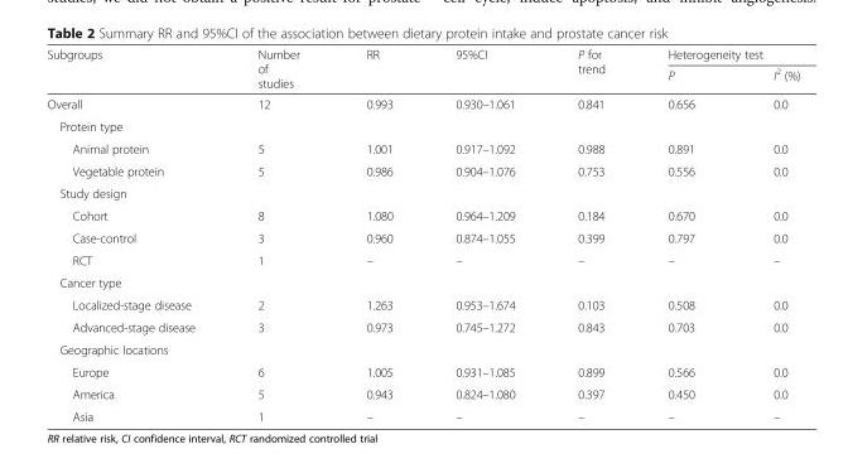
<table><thead><tr><td rowspan="2">Subgroups</td><td rowspan="2">Number of studies</td><td rowspan="2">RR</td><td rowspan="2">95%CI</td><td rowspan="2">P for trend</td><td colspan="2">Heterogeneity test</td></tr><tr><td>P</td><td>I<sup>2</sup> (%)</td></tr></thead><tbody><tr><td>Overall</td><td>12</td><td>0.993</td><td>0.930–1.061</td><td>0.841</td><td>0.656</td><td>0.0</td></tr><tr><td colspan="7">Protein type</td></tr><tr><td>Animal protein</td><td>5</td><td>1.001</td><td>0.917–1.092</td><td>0.988</td><td>0.891</td><td>0.0</td></tr><tr><td>Vegetable protein</td><td>5</td><td>0.986</td><td>0.904–1.076</td><td>0.753</td><td>0.556</td><td>0.0</td></tr><tr><td colspan="7">Study design</td></tr><tr><td>Cohort</td><td>8</td><td>1.080</td><td>0.964–1.209</td><td>0.184</td><td>0.670</td><td>0.0</td></tr><tr><td>Case-control</td><td>3</td><td>0.960</td><td>0.874–1.055</td><td>0.399</td><td>0.797</td><td>0.0</td></tr><tr><td>RCT</td><td>1</td><td>–</td><td>–</td><td>–</td><td>–</td><td>–</td></tr><tr><td colspan="7">Cancer type</td></tr><tr><td>Localized-stage disease</td><td>2</td><td>1.263</td><td>0.953–1.674</td><td>0.103</td><td>0.508</td><td>0.0</td></tr><tr><td>Advanced-stage disease</td><td>3</td><td>0.973</td><td>0.745–1.272</td><td>0.843</td><td>0.703</td><td>0.0</td></tr><tr><td colspan="7">Geographic locations</td></tr><tr><td>Europe</td><td>6</td><td>1.005</td><td>0.931–1.085</td><td>0.899</td><td>0.566</td><td>0.0</td></tr><tr><td>America</td><td>5</td><td>0.943</td><td>0.824–1.080</td><td>0.397</td><td>0.450</td><td>0.0</td></tr><tr><td>Asia</td><td>1</td><td>–</td><td>–</td><td>–</td><td>–</td><td>–</td></tr></tbody></table>